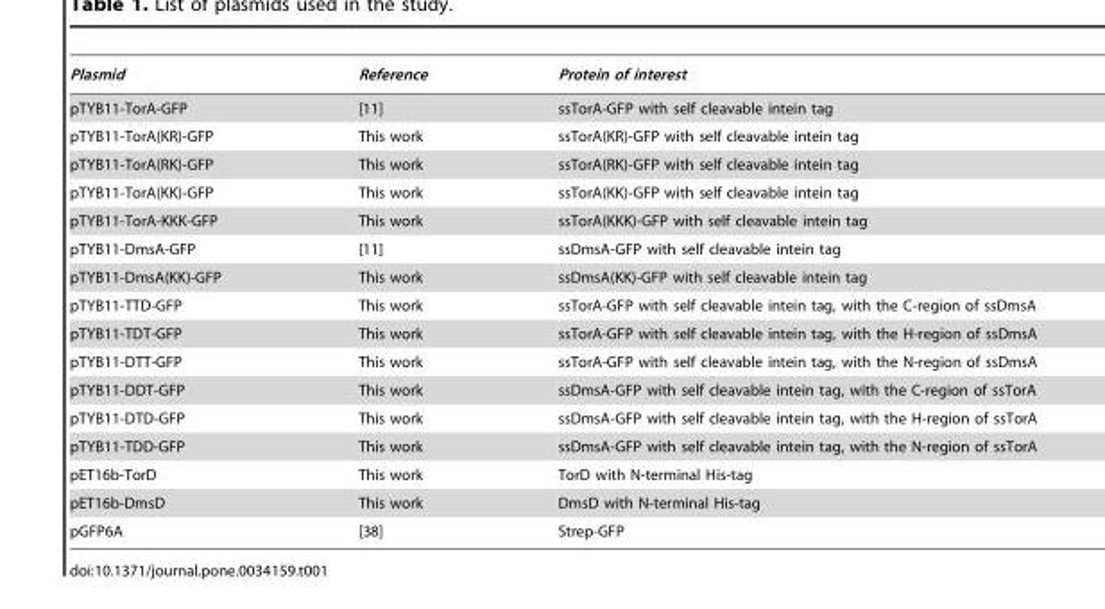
<table><thead><tr><td>Plasmid</td><td>Reference</td><td>Protein of interest</td></tr></thead><tbody><tr><td>pTYB11-TorA-GFP</td><td>[11]</td><td>ssTorA-GFP with self cleavable intein tag</td></tr><tr><td>pTYB11-TorA(KR)-GFP</td><td>This work</td><td>ssTorA(KR)-GFP with self cleavable intein tag</td></tr><tr><td>pTYB11-TorA(RK)-GFP</td><td>This work</td><td>ssTorA(RK)-GFP with self cleavable intein tag</td></tr><tr><td>pTYB11-TorA(KK)-GFP</td><td>This work</td><td>ssTorA(KK)-GFP with self cleavable intein tag</td></tr><tr><td>pTYB11-TorA-KKK-GFP</td><td>This work</td><td>ssTorA(KKK)-GFP with self cleavable intein tag</td></tr><tr><td>pTYB11-DmsA-GFP</td><td>[11]</td><td>ssDmsA-GFP with self cleavable intein tag</td></tr><tr><td>pTYB11-DmsA(KK)-GFP</td><td>This work</td><td>ssDmsA(KK)-GFP with self cleavable intein tag</td></tr><tr><td>pTYB11-TTD-GFP</td><td>This work</td><td>ssTorA-GFP with self cleavable intein tag, with the C-region of ssDmsA</td></tr><tr><td>pTYB11-TDT-GFP</td><td>This work</td><td>ssTorA-GFP with self cleavable intein tag, with the H-region of ssDmsA</td></tr><tr><td>pTYB11-DTT-GFP</td><td>This work</td><td>ssTorA-GFP with self cleavable intein tag, with the N-region of ssDmsA</td></tr><tr><td>pTYB11-DDT-GFP</td><td>This work</td><td>ssDmsA-GFP with self cleavable intein tag, with the C-region of ssTorA</td></tr><tr><td>pTYB11-DTD-GFP</td><td>This work</td><td>ssDmsA-GFP with self cleavable intein tag, with the H-region of ssTorA</td></tr><tr><td>pTYB11-TDD-GFP</td><td>This work</td><td>ssDmsA-GFP with self cleavable intein tag, with the N-region of ssTorA</td></tr><tr><td>pET16b-TorD</td><td>This work</td><td>TorD with N-terminal His-tag</td></tr><tr><td>pET16b-DmsD</td><td>This work</td><td>DmsD with N-terminal His-tag</td></tr><tr><td>pGFP6A</td><td>[38]</td><td>Strep-GFP</td></tr></tbody></table>